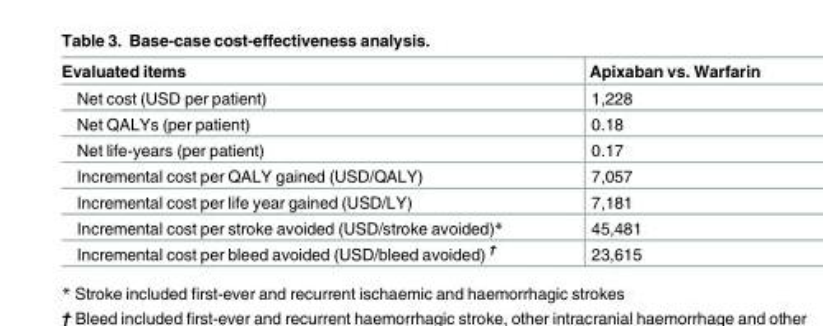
<table><thead><tr><td>Evaluated items</td><td>Apixaban vs. Warfarin</td></tr></thead><tbody><tr><td>Net cost (USD per patient)</td><td>1,228</td></tr><tr><td>Net QALYs (per patient)</td><td>0.18</td></tr><tr><td>Net life-years (per patient)</td><td>0.17</td></tr><tr><td>Incremental cost per QALY gained (USD/QALY)</td><td>7,057</td></tr><tr><td>Incremental cost per life year gained (USD/LY)</td><td>7,181</td></tr><tr><td>Incremental cost per stroke avoided (USD/stroke avoided)*</td><td>45,481</td></tr><tr><td>Incremental cost per bleed avoided (USD/bleed avoided) <sup>†</sup></td><td>23,615</td></tr></tbody></table>